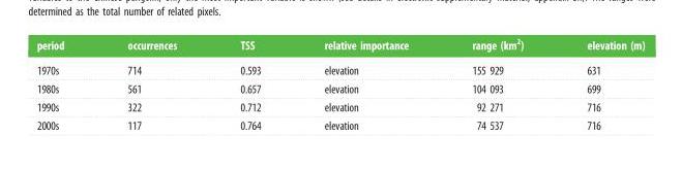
<table><thead><tr><td>period</td><td>occurrences</td><td>TSS</td><td>relative importance</td><td>range (km<sup>2</sup>)</td><td>elevation (m)</td></tr></thead><tbody><tr><td>1970s</td><td>714</td><td>0.593</td><td>elevation</td><td>155 929</td><td>631</td></tr><tr><td>1980s</td><td>561</td><td>0.657</td><td>elevation</td><td>104 093</td><td>699</td></tr><tr><td>1990s</td><td>322</td><td>0.712</td><td>elevation</td><td>92 271</td><td>716</td></tr><tr><td>2000s</td><td>117</td><td>0.764</td><td>elevation</td><td>74 537</td><td>716</td></tr></tbody></table>